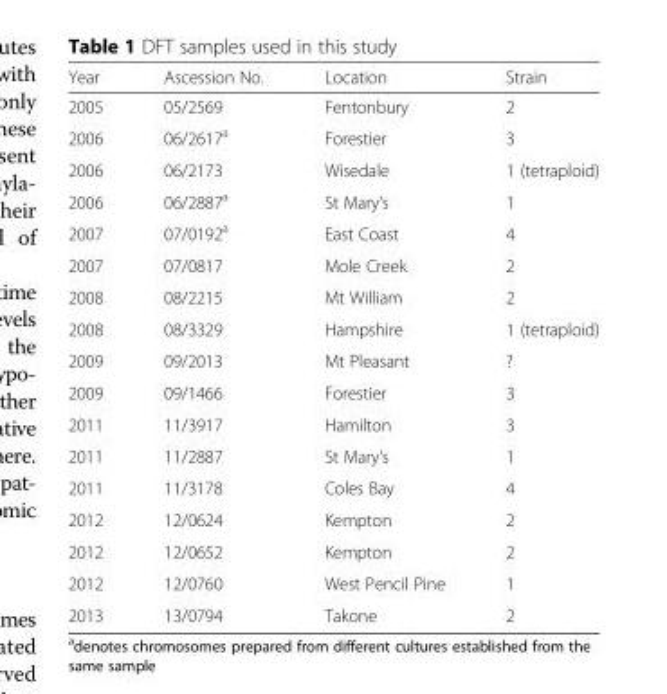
<table><thead><tr><td>Year</td><td>Ascession No.</td><td>Location</td><td>Strain</td></tr></thead><tbody><tr><td>2005</td><td>05/2569</td><td>Fentonbury</td><td>2</td></tr><tr><td>2006</td><td>06/2617<sup>a</sup></td><td>Forestier</td><td>3</td></tr><tr><td>2006</td><td>06/2173</td><td>Wisedale</td><td>1 (tetraploid)</td></tr><tr><td>2006</td><td>06/2887<sup>a</sup></td><td>St Mary’s</td><td>1</td></tr><tr><td>2007</td><td>07/0192<sup>a</sup></td><td>East Coast</td><td>4</td></tr><tr><td>2007</td><td>07/0817</td><td>Mole Creek</td><td>2</td></tr><tr><td>2008</td><td>08/2215</td><td>Mt William</td><td>2</td></tr><tr><td>2008</td><td>08/3329</td><td>Hampshire</td><td>1 (tetraploid)</td></tr><tr><td>2009</td><td>09/2013</td><td>Mt Pleasant</td><td>?</td></tr><tr><td>2009</td><td>09/1466</td><td>Forestier</td><td>3</td></tr><tr><td>2011</td><td>11/3917</td><td>Hamilton</td><td>3</td></tr><tr><td>2011</td><td>11/2887</td><td>St Mary’s</td><td>1</td></tr><tr><td>2011</td><td>11/3178</td><td>Coles Bay</td><td>4</td></tr><tr><td>2012</td><td>12/0624</td><td>Kempton</td><td>2</td></tr><tr><td>2012</td><td>12/0652</td><td>Kempton</td><td>2</td></tr><tr><td>2012</td><td>12/0760</td><td>West Pencil Pine</td><td>1</td></tr><tr><td>2013</td><td>13/0794</td><td>Takone</td><td>2</td></tr></tbody></table>